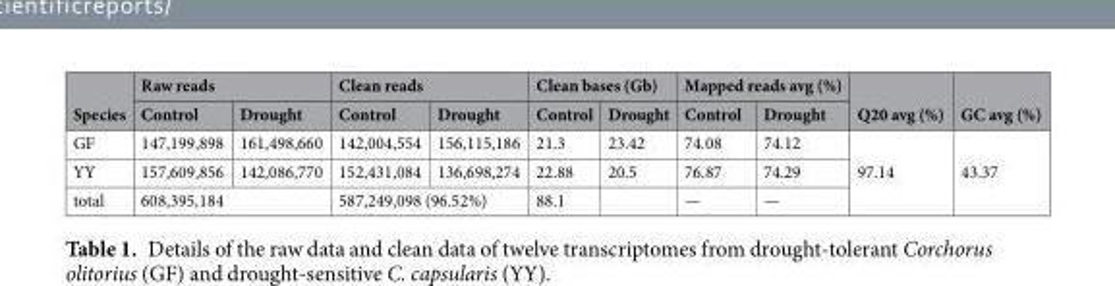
<table><thead><tr><td rowspan="2">Species</td><td colspan="2">Raw reads</td><td colspan="2">Clean reads</td><td colspan="2">Clean bases (Gb)</td><td colspan="2">Mapped reads avg (%)</td><td rowspan="2">Q20 avg (%)</td><td rowspan="2">GC avg (%)</td></tr><tr><td>Control</td><td>Drought</td><td>Control</td><td>Drought</td><td>Control</td><td>Drought</td><td>Control</td><td>Drought</td></tr></thead><tbody><tr><td>GF</td><td>147,199,898</td><td>161,498,660</td><td>142,004,554</td><td>156,115,186</td><td>21.3</td><td>23.42</td><td>74.08</td><td>74.12</td><td rowspan="3">97.14</td><td rowspan="3">43.37</td></tr><tr><td>YY</td><td>157,609,856</td><td>142,086,770</td><td>152,431,084</td><td>136,698,274</td><td>22.88</td><td>20.5</td><td>76.87</td><td>74.29</td></tr><tr><td>total</td><td colspan="2">608,395,184</td><td colspan="2">587,249,098 (96.52%)</td><td>88.1</td><td></td><td>—</td><td>—</td></tr></tbody></table>